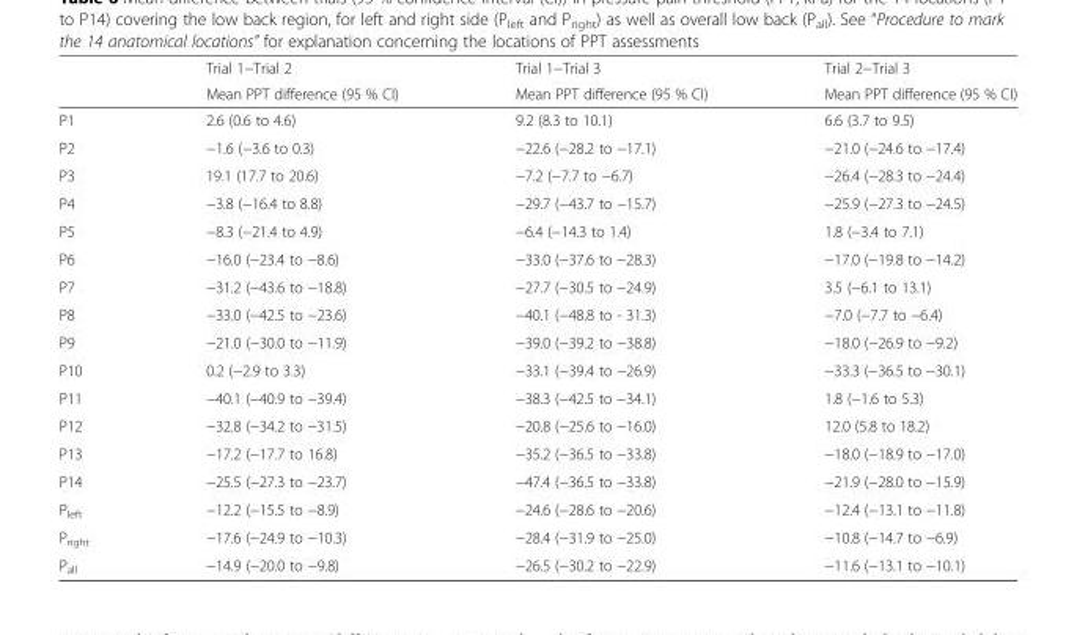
<table><thead><tr><td rowspan="2"></td><td rowspan="2">Trial 1−Trial 2 Mean PPT difference (95 % CI)</td><td rowspan="2">Trial 1−Trial 3 Mean PPT difference (95 % CI)</td><td rowspan="2">Trial 2−Trial 3 Mean PPT difference (95 % CI)</td></tr><tr></tr></thead><tbody><tr><td>P1</td><td>2.6 (0.6 to 4.6)</td><td>9.2 (8.3 to 10.1)</td><td>6.6 (3.7 to 9.5)</td></tr><tr><td>P2</td><td>−1.6 (−3.6 to 0.3)</td><td>−22.6 (−28.2 to −17.1)</td><td>−21.0 (−24.6 to −17.4)</td></tr><tr><td>P3</td><td>19.1 (17.7 to 20.6)</td><td>−7.2 (−7.7 to −6.7)</td><td>−26.4 (−28.3 to −24.4)</td></tr><tr><td>P4</td><td>−3.8 (−16.4 to 8.8)</td><td>−29.7 (−43.7 to −15.7)</td><td>−25.9 (−27.3 to −24.5)</td></tr><tr><td>P5</td><td>−8.3 (−21.4 to 4.9)</td><td>−6.4 (−14.3 to 1.4)</td><td>1.8 (−3.4 to 7.1)</td></tr><tr><td>P6</td><td>−16.0 (−23.4 to −8.6)</td><td>−33.0 (−37.6 to −28.3)</td><td>−17.0 (−19.8 to −14.2)</td></tr><tr><td>P7</td><td>−31.2 (−43.6 to −18.8)</td><td>−27.7 (−30.5 to −24.9)</td><td>3.5 (−6.1 to 13.1)</td></tr><tr><td>P8</td><td>−33.0 (−42.5 to −23.6)</td><td>−40.1 (−48.8 to - 31.3)</td><td>−7.0 (−7.7 to −6.4)</td></tr><tr><td>P9</td><td>−21.0 (−30.0 to −11.9)</td><td>−39.0 (−39.2 to −38.8)</td><td>−18.0 (−26.9 to −9.2)</td></tr><tr><td>P10</td><td>0.2 (−2.9 to 3.3)</td><td>−33.1 (−39.4 to −26.9)</td><td>−33.3 (−36.5 to −30.1)</td></tr><tr><td>P11</td><td>−40.1 (−40.9 to −39.4)</td><td>−38.3 (−42.5 to −34.1)</td><td>1.8 (−1.6 to 5.3)</td></tr><tr><td>P12</td><td>−32.8 (−34.2 to −31.5)</td><td>−20.8 (−25.6 to −16.0)</td><td>12.0 (5.8 to 18.2)</td></tr><tr><td>P13</td><td>−17.2 (−17.7 to 16.8)</td><td>−35.2 (−36.5 to −33.8)</td><td>−18.0 (−18.9 to −17.0)</td></tr><tr><td>P14</td><td>−25.5 (−27.3 to −23.7)</td><td>−47.4 (−36.5 to −33.8)</td><td>−21.9 (−28.0 to −15.9)</td></tr><tr><td>P<sub>left</sub></td><td>−12.2 (−15.5 to −8.9)</td><td>−24.6 (−28.6 to −20.6)</td><td>−12.4 (−13.1 to −11.8)</td></tr><tr><td>P<sub>right</sub></td><td>−17.6 (−24.9 to −10.3)</td><td>−28.4 (−31.9 to −25.0)</td><td>−10.8 (−14.7 to −6.9)</td></tr><tr><td>P<sub>all</sub></td><td>−14.9 (−20.0 to −9.8)</td><td>−26.5 (−30.2 to −22.9)</td><td>−11.6 (−13.1 to −10.1)</td></tr></tbody></table>